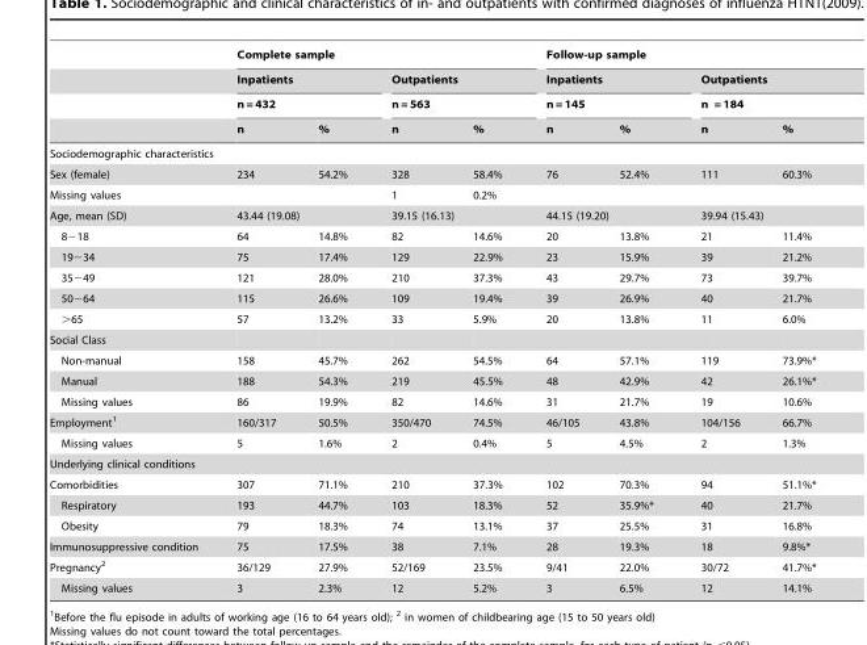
<table><thead><tr><td rowspan="4"></td><td colspan="4">Complete sample</td><td colspan="4">Follow-up sample</td></tr><tr><td rowspan="2" colspan="2">Inpatients n = 432</td><td rowspan="2" colspan="2">Outpatients n = 563</td><td rowspan="2" colspan="2">Inpatients n = 145</td><td rowspan="2" colspan="2">Outpatients n = 184</td></tr><tr></tr><tr><td>n</td><td>%</td><td>n</td><td>%</td><td>n</td><td>%</td><td>n</td><td>%</td></tr></thead><tbody><tr><td colspan="9">Sociodemographic characteristics</td></tr><tr><td>Sex (female)</td><td>234</td><td>54.2%</td><td>328</td><td>58.4%</td><td>76</td><td>52.4%</td><td>111</td><td>60.3%</td></tr><tr><td>Missing values</td><td></td><td></td><td>1</td><td>0.2%</td><td></td><td></td><td></td><td></td></tr><tr><td>Age, mean (SD)</td><td colspan="2">43.44 (19.08)</td><td colspan="2">39.15 (16.13)</td><td colspan="2">44.15 (19.20)</td><td colspan="2">39.94 (15.43)</td></tr><tr><td>8−18</td><td>64</td><td>14.8%</td><td>82</td><td>14.6%</td><td>20</td><td>13.8%</td><td>21</td><td>11.4%</td></tr><tr><td>19−34</td><td>75</td><td>17.4%</td><td>129</td><td>22.9%</td><td>23</td><td>15.9%</td><td>39</td><td>21.2%</td></tr><tr><td>35−49</td><td>121</td><td>28.0%</td><td>210</td><td>37.3%</td><td>43</td><td>29.7%</td><td>73</td><td>39.7%</td></tr><tr><td>50−64</td><td>115</td><td>26.6%</td><td>109</td><td>19.4%</td><td>39</td><td>26.9%</td><td>40</td><td>21.7%</td></tr><tr><td>&gt;65</td><td>57</td><td>13.2%</td><td>33</td><td>5.9%</td><td>20</td><td>13.8%</td><td>11</td><td>6.0%</td></tr><tr><td colspan="9">Social Class</td></tr><tr><td>Non-manual</td><td>158</td><td>45.7%</td><td>262</td><td>54.5%</td><td>64</td><td>57.1%</td><td>119</td><td>73.9%*</td></tr><tr><td>Manual</td><td>188</td><td>54.3%</td><td>219</td><td>45.5%</td><td>48</td><td>42.9%</td><td>42</td><td>26.1%*</td></tr><tr><td>Missing values</td><td>86</td><td>19.9%</td><td>82</td><td>14.6%</td><td>31</td><td>21.7%</td><td>19</td><td>10.6%</td></tr><tr><td>Employment<sup>1</sup></td><td>160/317</td><td>50.5%</td><td>350/470</td><td>74.5%</td><td>46/105</td><td>43.8%</td><td>104/156</td><td>66.7%</td></tr><tr><td>Missing values</td><td>5</td><td>1.6%</td><td>2</td><td>0.4%</td><td>5</td><td>4.5%</td><td>2</td><td>1.3%</td></tr><tr><td colspan="9">Underlying clinical conditions</td></tr><tr><td>Comorbidities</td><td>307</td><td>71.1%</td><td>210</td><td>37.3%</td><td>102</td><td>70.3%</td><td>94</td><td>51.1%*</td></tr><tr><td>Respiratory</td><td>193</td><td>44.7%</td><td>103</td><td>18.3%</td><td>52</td><td>35.9%*</td><td>40</td><td>21.7%</td></tr><tr><td>Obesity</td><td>79</td><td>18.3%</td><td>74</td><td>13.1%</td><td>37</td><td>25.5%</td><td>31</td><td>16.8%</td></tr><tr><td>Immunosuppressive condition</td><td>75</td><td>17.5%</td><td>38</td><td>7.1%</td><td>28</td><td>19.3%</td><td>18</td><td>9.8%*</td></tr><tr><td>Pregnancy<sup>2</sup></td><td>36/129</td><td>27.9%</td><td>52/169</td><td>23.5%</td><td>9/41</td><td>22.0%</td><td>30/72</td><td>41.7%*</td></tr><tr><td>Missing values</td><td>3</td><td>2.3%</td><td>12</td><td>5.2%</td><td>3</td><td>6.5%</td><td>12</td><td>14.1%</td></tr></tbody></table>